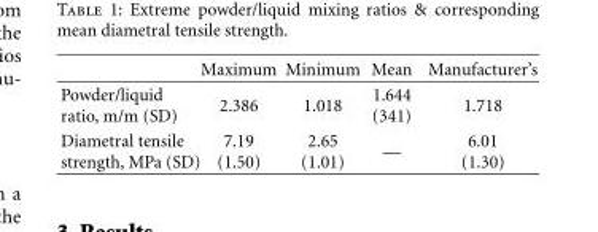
<table><thead><tr><td></td><td>Maximum</td><td>Minimum</td><td>Mean</td><td>Manufacturer’s</td></tr></thead><tbody><tr><td>Powder/liquid ratio, m/m (SD)</td><td>2.386</td><td>1.018</td><td>1.644 (341)</td><td>1.718</td></tr><tr><td>Diametral tensile strength, MPa (SD)</td><td>7.19 (1.50)</td><td>2.65 (1.01)</td><td>—</td><td>6.01 (1.30)</td></tr></tbody></table>